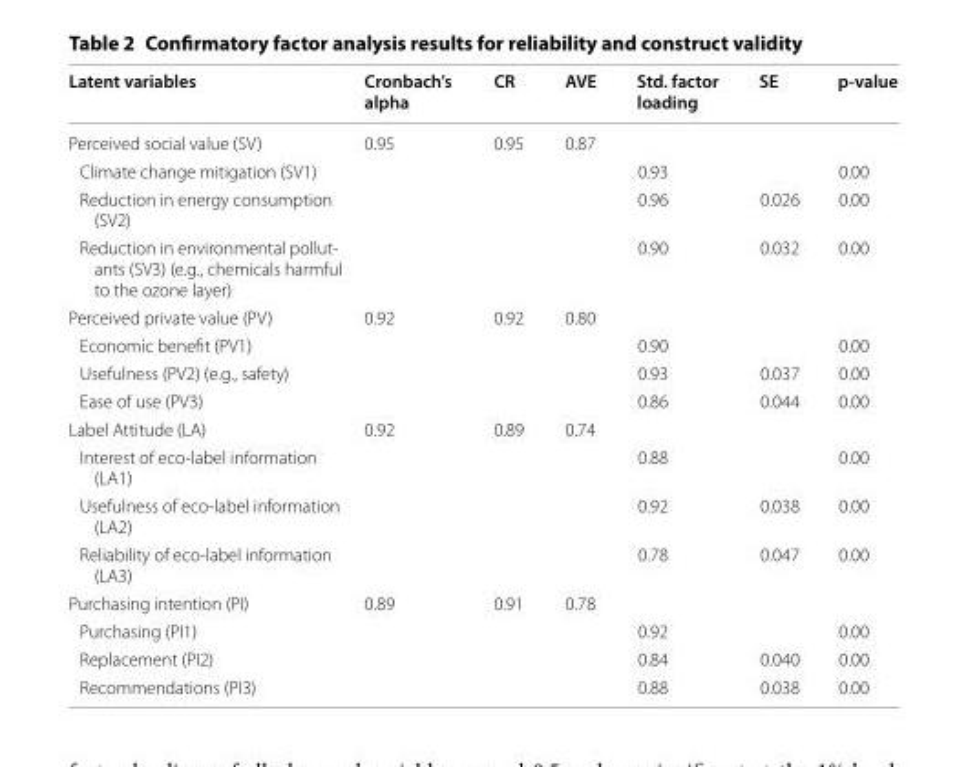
<table><thead><tr><td>Latent variables</td><td>Cronbach’s alpha</td><td>CR</td><td>AVE</td><td>Std. factor loading</td><td>SE</td><td>p-value</td></tr></thead><tbody><tr><td>Perceived social value (SV)</td><td>0.95</td><td>0.95</td><td>0.87</td><td></td><td></td><td></td></tr><tr><td>Climate change mitigation (SV1)</td><td></td><td></td><td></td><td>0.93</td><td></td><td>0.00</td></tr><tr><td>Reduction in energy consumption (SV2)</td><td></td><td></td><td></td><td>0.96</td><td>0.026</td><td>0.00</td></tr><tr><td>Reduction in environmental pollut‑ ants (SV3) (e.g., chemicals harmful to the ozone layer)</td><td></td><td></td><td></td><td>0.90</td><td>0.032</td><td>0.00</td></tr><tr><td>Perceived private value (PV)</td><td>0.92</td><td>0.92</td><td>0.80</td><td></td><td></td><td></td></tr><tr><td>Economic benefit (PV1)</td><td></td><td></td><td></td><td>0.90</td><td></td><td>0.00</td></tr><tr><td>Usefulness (PV2) (e.g., safety)</td><td></td><td></td><td></td><td>0.93</td><td>0.037</td><td>0.00</td></tr><tr><td>Ease of use (PV3)</td><td></td><td></td><td></td><td>0.86</td><td>0.044</td><td>0.00</td></tr><tr><td>Label Attitude (LA)</td><td>0.92</td><td>0.89</td><td>0.74</td><td></td><td></td><td></td></tr><tr><td>Interest of eco‑label information (LA1)</td><td></td><td></td><td></td><td>0.88</td><td></td><td>0.00</td></tr><tr><td>Usefulness of eco‑label information (LA2)</td><td></td><td></td><td></td><td>0.92</td><td>0.038</td><td>0.00</td></tr><tr><td>Reliability of eco‑label information (LA3)</td><td></td><td></td><td></td><td>0.78</td><td>0.047</td><td>0.00</td></tr><tr><td>Purchasing intention (PI)</td><td>0.89</td><td>0.91</td><td>0.78</td><td></td><td></td><td></td></tr><tr><td>Purchasing (PI1)</td><td></td><td></td><td></td><td>0.92</td><td></td><td>0.00</td></tr><tr><td>Replacement (PI2)</td><td></td><td></td><td></td><td>0.84</td><td>0.040</td><td>0.00</td></tr><tr><td>Recommendations (PI3)</td><td></td><td></td><td></td><td>0.88</td><td>0.038</td><td>0.00</td></tr></tbody></table>